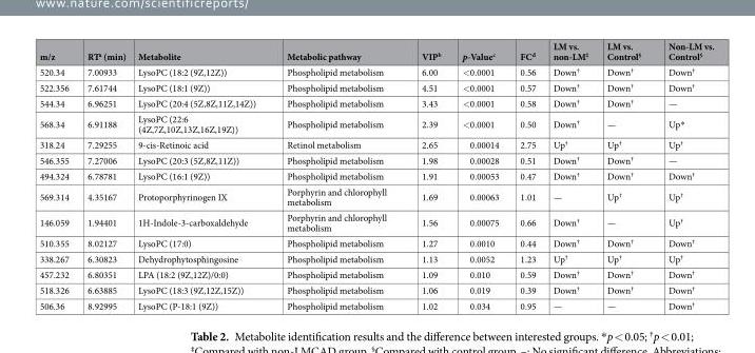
<table><thead><tr><td>m/z</td><td>RT<sup>a</sup> (min)</td><td>Metabolite</td><td>Metabolic pathway</td><td>VIP<sup>b</sup></td><td>p-Value<sup>c</sup></td><td>FC<sup>d</sup></td><td>LM vs. non-LM<sup>‡</sup></td><td>LM vs. Control<sup>§</sup></td><td>Non-LM vs. Control<sup>§</sup></td></tr></thead><tbody><tr><td>520.34</td><td>7.00933</td><td>LysoPC (18:2 (9Z,12Z))</td><td>Phospholipid metabolism</td><td>6.00</td><td>&lt;0.0001</td><td>0.56</td><td>Down<sup>†</sup></td><td>Down<sup>†</sup></td><td>Down<sup>†</sup></td></tr><tr><td>522.356</td><td>7.61744</td><td>LysoPC (18:1 (9Z))</td><td>Phospholipid metabolism</td><td>4.51</td><td>&lt;0.0001</td><td>0.57</td><td>Down<sup>†</sup></td><td>Down<sup>†</sup></td><td>Down<sup>†</sup></td></tr><tr><td>544.34</td><td>6.96251</td><td>LysoPC (20:4 (5Z,8Z,11Z,14Z))</td><td>Phospholipid metabolism</td><td>3.43</td><td>&lt;0.0001</td><td>0.58</td><td>Down<sup>†</sup></td><td>Down<sup>†</sup></td><td>—</td></tr><tr><td>568.34</td><td>6.91188</td><td>LysoPC (22:6 (4Z,7Z,10Z,13Z,16Z,19Z))</td><td>Phospholipid metabolism</td><td>2.39</td><td>&lt;0.0001</td><td>0.50</td><td>Down<sup>†</sup></td><td>—</td><td>Up*</td></tr><tr><td>318.24</td><td>7.29255</td><td>9-cis-Retinoic acid</td><td>Retinol metabolism</td><td>2.65</td><td>0.00014</td><td>2.75</td><td>Up<sup>†</sup></td><td>Up<sup>†</sup></td><td>Up<sup>†</sup></td></tr><tr><td>546.355</td><td>7.27006</td><td>LysoPC (20:3 (5Z,8Z,11Z))</td><td>Phospholipid metabolism</td><td>1.98</td><td>0.00028</td><td>0.51</td><td>Down<sup>†</sup></td><td>Down<sup>†</sup></td><td>—</td></tr><tr><td>494.324</td><td>6.78781</td><td>LysoPC (16:1 (9Z))</td><td>Phospholipid metabolism</td><td>1.91</td><td>0.00053</td><td>0.47</td><td>Down<sup>†</sup></td><td>Down<sup>†</sup></td><td>Down<sup>†</sup></td></tr><tr><td>569.314</td><td>4.35167</td><td>Protoporphyrinogen IX</td><td>Porphyrin and chlorophyll metabolism</td><td>1.69</td><td>0.00063</td><td>1.01</td><td>—</td><td>Up<sup>†</sup></td><td>Up<sup>†</sup></td></tr><tr><td>146.059</td><td>1.94401</td><td>1H-Indole-3-carboxaldehyde</td><td>Porphyrin and chlorophyll metabolism</td><td>1.56</td><td>0.00075</td><td>0.66</td><td>Down<sup>†</sup></td><td>—</td><td>Up<sup>†</sup></td></tr><tr><td>510.355</td><td>8.02127</td><td>LysoPC (17:0)</td><td>Phospholipid metabolism</td><td>1.27</td><td>0.0010</td><td>0.44</td><td>Down<sup>†</sup></td><td>Down<sup>†</sup></td><td>Down<sup>†</sup></td></tr><tr><td>338.267</td><td>6.30823</td><td>Dehydrophytosphingosine</td><td>Phospholipid metabolism</td><td>1.13</td><td>0.0052</td><td>1.23</td><td>Up<sup>†</sup></td><td>Up<sup>†</sup></td><td>Up<sup>†</sup></td></tr><tr><td>457.232</td><td>6.80351</td><td>LPA (18:2 (9Z,12Z)/0:0)</td><td>Phospholipid metabolism</td><td>1.09</td><td>0.010</td><td>0.59</td><td>Down<sup>†</sup></td><td>Down<sup>†</sup></td><td>Down<sup>†</sup></td></tr><tr><td>518.326</td><td>6.63885</td><td>LysoPC (18:3 (9Z,12Z,15Z))</td><td>Phospholipid metabolism</td><td>1.06</td><td>0.019</td><td>0.39</td><td>Down<sup>†</sup></td><td>Down<sup>†</sup></td><td>Down<sup>†</sup></td></tr><tr><td>506.36</td><td>8.92995</td><td>LysoPC (P-18:1 (9Z))</td><td>Phospholipid metabolism</td><td>1.02</td><td>0.034</td><td>0.95</td><td>—</td><td>—</td><td>Down<sup>†</sup></td></tr></tbody></table>